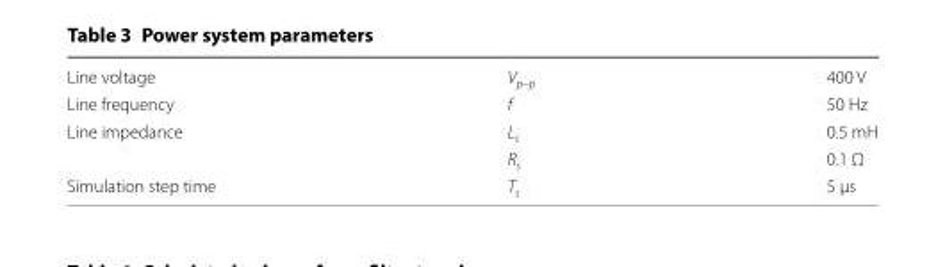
<table><tbody><tr><td>Line voltage</td><td>V<sub>p–p</sub></td><td>400 V</td></tr><tr><td>Line frequency</td><td>f</td><td>50 Hz</td></tr><tr><td rowspan="2">Line impedance</td><td>L<sub>s</sub></td><td>0.5 mH</td></tr><tr><td>R<sub>s</sub></td><td>0.1 Ω</td></tr><tr><td>Simulation step time</td><td>T<sub>s</sub></td><td>5 µs</td></tr></tbody></table>